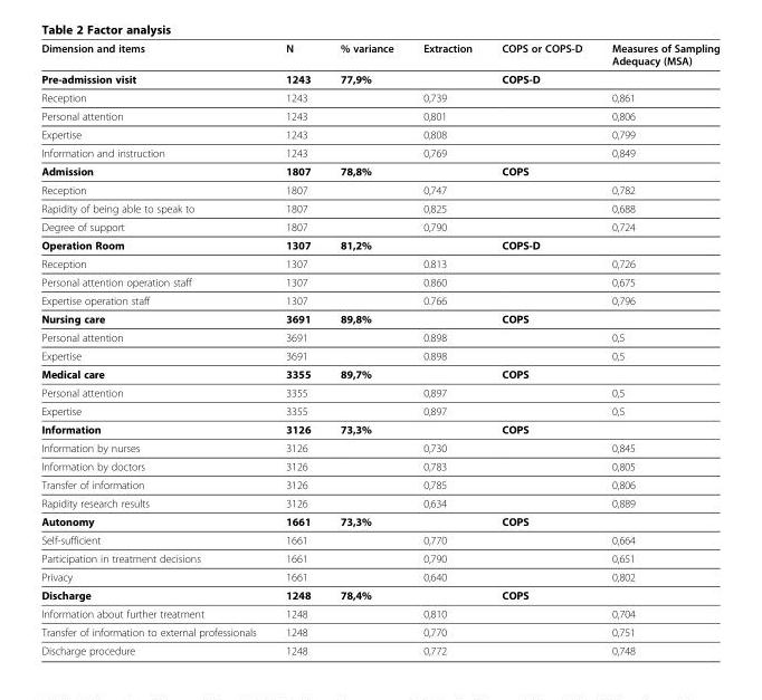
<table><thead><tr><td>Dimension and items</td><td>N</td><td>% variance</td><td>Extraction</td><td>COPS or COPS-D</td><td>Measures of Sampling Adequacy (MSA)</td></tr></thead><tbody><tr><td>Pre-admission visit</td><td>1243</td><td>77,9%</td><td></td><td>COPS-D</td><td></td></tr><tr><td>Reception</td><td>1243</td><td></td><td>0,739</td><td></td><td>0,861</td></tr><tr><td>Personal attention</td><td>1243</td><td></td><td>0,801</td><td></td><td>0,806</td></tr><tr><td>Expertise</td><td>1243</td><td></td><td>0,808</td><td></td><td>0,799</td></tr><tr><td>Information and instruction</td><td>1243</td><td></td><td>0,769</td><td></td><td>0,849</td></tr><tr><td>Admission</td><td>1807</td><td>78,8%</td><td></td><td>COPS</td><td></td></tr><tr><td>Reception</td><td>1807</td><td></td><td>0,747</td><td></td><td>0,782</td></tr><tr><td>Rapidity of being able to speak to</td><td>1807</td><td></td><td>0,825</td><td></td><td>0,688</td></tr><tr><td>Degree of support</td><td>1807</td><td></td><td>0,790</td><td></td><td>0,724</td></tr><tr><td>Operation Room</td><td>1307</td><td>81,2%</td><td></td><td>COPS-D</td><td></td></tr><tr><td>Reception</td><td>1307</td><td></td><td>0.813</td><td></td><td>0,726</td></tr><tr><td>Personal attention operation staff</td><td>1307</td><td></td><td>0.860</td><td></td><td>0,675</td></tr><tr><td>Expertise operation staff</td><td>1307</td><td></td><td>0.766</td><td></td><td>0,796</td></tr><tr><td>Nursing care</td><td>3691</td><td>89,8%</td><td></td><td>COPS</td><td></td></tr><tr><td>Personal attention</td><td>3691</td><td></td><td>0.898</td><td></td><td>0,5</td></tr><tr><td>Expertise</td><td>3691</td><td></td><td>0.898</td><td></td><td>0,5</td></tr><tr><td>Medical care</td><td>3355</td><td>89,7%</td><td></td><td>COPS</td><td></td></tr><tr><td>Personal attention</td><td>3355</td><td></td><td>0,897</td><td></td><td>0,5</td></tr><tr><td>Expertise</td><td>3355</td><td></td><td>0,897</td><td></td><td>0,5</td></tr><tr><td>Information</td><td>3126</td><td>73,3%</td><td></td><td>COPS</td><td></td></tr><tr><td>Information by nurses</td><td>3126</td><td></td><td>0,730</td><td></td><td>0,845</td></tr><tr><td>Information by doctors</td><td>3126</td><td></td><td>0,783</td><td></td><td>0,805</td></tr><tr><td>Transfer of information</td><td>3126</td><td></td><td>0,785</td><td></td><td>0,806</td></tr><tr><td>Rapidity research results</td><td>3126</td><td></td><td>0,634</td><td></td><td>0,889</td></tr><tr><td>Autonomy</td><td>1661</td><td>73,3%</td><td></td><td>COPS</td><td></td></tr><tr><td>Self-sufficient</td><td>1661</td><td></td><td>0,770</td><td></td><td>0,664</td></tr><tr><td>Participation in treatment decisions</td><td>1661</td><td></td><td>0,790</td><td></td><td>0,651</td></tr><tr><td>Privacy</td><td>1661</td><td></td><td>0,640</td><td></td><td>0,802</td></tr><tr><td>Discharge</td><td>1248</td><td>78,4%</td><td></td><td>COPS</td><td></td></tr><tr><td>Information about further treatment</td><td>1248</td><td></td><td>0,810</td><td></td><td>0,704</td></tr><tr><td>Transfer of information to external professionals</td><td>1248</td><td></td><td>0,770</td><td></td><td>0,751</td></tr><tr><td>Discharge procedure</td><td>1248</td><td></td><td>0,772</td><td></td><td>0,748</td></tr></tbody></table>